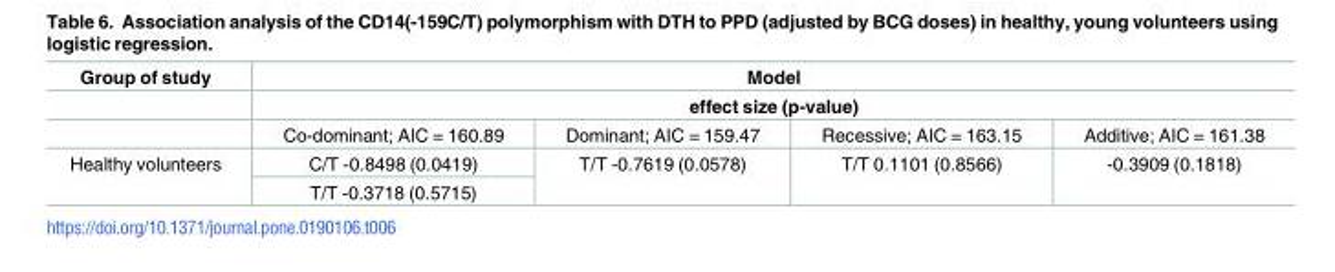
<table><thead><tr><td rowspan="3">Group of study</td><td rowspan="2" colspan="4">Model effect size (p-value)</td></tr><tr></tr><tr><td>Co-dominant; AIC = 160.89</td><td>Dominant; AIC = 159.47</td><td>Recessive; AIC = 163.15</td><td>Additive; AIC = 161.38</td></tr></thead><tbody><tr><td rowspan="2">Healthy volunteers</td><td>C/T -0.8498 (0.0419)</td><td rowspan="2">T/T -0.7619 (0.0578)</td><td rowspan="2">T/T 0.1101 (0.8566)</td><td rowspan="2">-0.3909 (0.1818)</td></tr><tr><td>T/T -0.3718 (0.5715)</td></tr></tbody></table>